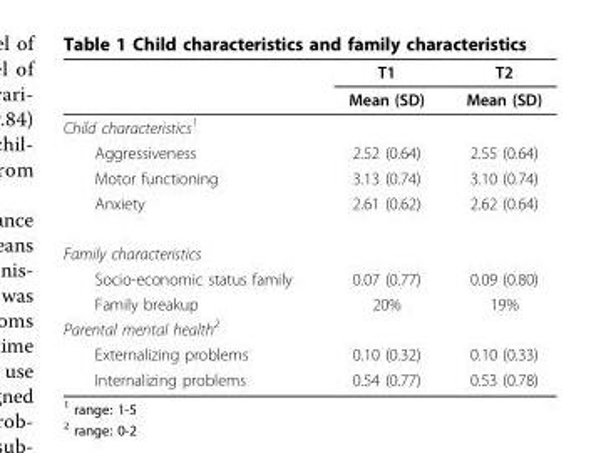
<table><thead><tr><td rowspan="2"></td><td rowspan="2">T1 Mean (SD)</td><td rowspan="2">T2 Mean (SD)</td></tr><tr></tr></thead><tbody><tr><td colspan="3">Child characteristics<sup>1</sup></td></tr><tr><td>Aggressiveness</td><td>2.52 (0.64)</td><td>2.55 (0.64)</td></tr><tr><td>Motor functioning</td><td>3.13 (0.74)</td><td>3.10 (0.74)</td></tr><tr><td>Anxiety</td><td>2.61 (0.62)</td><td>2.62 (0.64)</td></tr><tr><td colspan="3">Family characteristics</td></tr><tr><td>Socio-economic status family</td><td>0.07 (0.77)</td><td>0.09 (0.80)</td></tr><tr><td>Family breakup</td><td>20%</td><td>19%</td></tr><tr><td colspan="3">Parental mental health<sup>2</sup></td></tr><tr><td>Externalizing problems</td><td>0.10 (0.32)</td><td>0.10 (0.33)</td></tr><tr><td>Internalizing problems</td><td>0.54 (0.77)</td><td>0.53 (0.78)</td></tr></tbody></table>